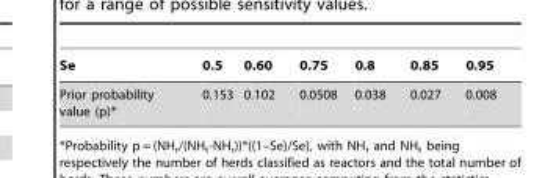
<table><thead><tr><td>Se</td><td>0.5</td><td>0.60</td><td>0.75</td><td>0.8</td><td>0.85</td><td>0.95</td></tr></thead><tbody><tr><td>Prior probability value (p)*</td><td>0.153</td><td>0.102</td><td>0.0508</td><td>0.038</td><td>0.027</td><td>0.008</td></tr></tbody></table>